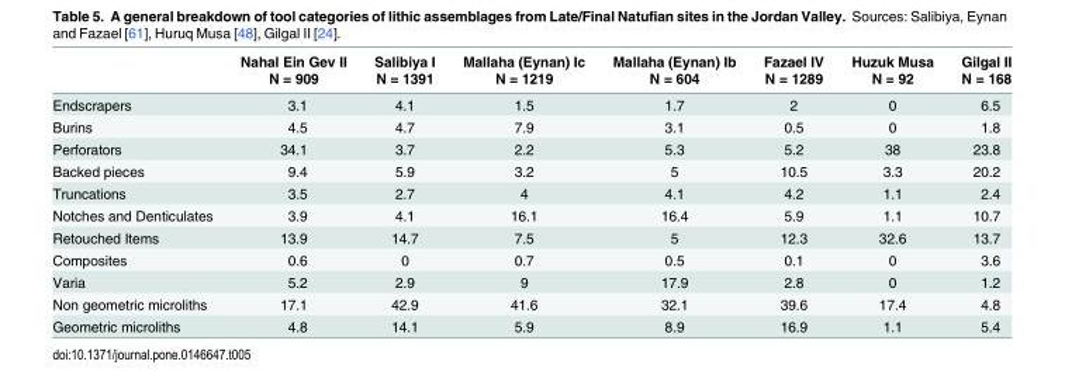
<table><thead><tr><td rowspan="2"></td><td rowspan="2">Nahal Ein Gev II N = 909</td><td rowspan="2">Salibiya I N = 1391</td><td rowspan="2">Mallaha (Eynan) Ic N = 1219</td><td rowspan="2">Mallaha (Eynan) Ib N = 604</td><td rowspan="2">Fazael IV N = 1289</td><td rowspan="2">Huzuk Musa N = 92</td><td rowspan="2">Gilgal II N = 168</td></tr><tr></tr></thead><tbody><tr><td>Endscrapers</td><td>3.1</td><td>4.1</td><td>1.5</td><td>1.7</td><td>2</td><td>0</td><td>6.5</td></tr><tr><td>Burins</td><td>4.5</td><td>4.7</td><td>7.9</td><td>3.1</td><td>0.5</td><td>0</td><td>1.8</td></tr><tr><td>Perforators</td><td>34.1</td><td>3.7</td><td>2.2</td><td>5.3</td><td>5.2</td><td>38</td><td>23.8</td></tr><tr><td>Backed pieces</td><td>9.4</td><td>5.9</td><td>3.2</td><td>5</td><td>10.5</td><td>3.3</td><td>20.2</td></tr><tr><td>Truncations</td><td>3.5</td><td>2.7</td><td>4</td><td>4.1</td><td>4.2</td><td>1.1</td><td>2.4</td></tr><tr><td>Notches and Denticulates</td><td>3.9</td><td>4.1</td><td>16.1</td><td>16.4</td><td>5.9</td><td>1.1</td><td>10.7</td></tr><tr><td>Retouched Items</td><td>13.9</td><td>14.7</td><td>7.5</td><td>5</td><td>12.3</td><td>32.6</td><td>13.7</td></tr><tr><td>Composites</td><td>0.6</td><td>0</td><td>0.7</td><td>0.5</td><td>0.1</td><td>0</td><td>3.6</td></tr><tr><td>Varia</td><td>5.2</td><td>2.9</td><td>9</td><td>17.9</td><td>2.8</td><td>0</td><td>1.2</td></tr><tr><td>Non geometric microliths</td><td>17.1</td><td>42.9</td><td>41.6</td><td>32.1</td><td>39.6</td><td>17.4</td><td>4.8</td></tr><tr><td>Geometric microliths</td><td>4.8</td><td>14.1</td><td>5.9</td><td>8.9</td><td>16.9</td><td>1.1</td><td>5.4</td></tr></tbody></table>